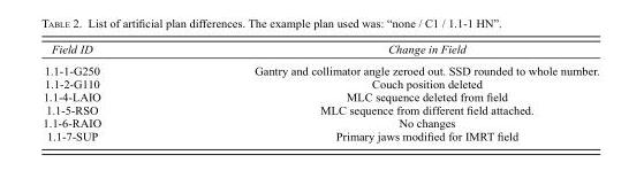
<table><thead><tr><td>Field ID</td><td>Change in Field</td></tr></thead><tbody><tr><td>1.1-1-G250</td><td>Gantry and collimator angle zeroed out. SSD rounded to whole number.</td></tr><tr><td>1.1-2-G110</td><td>Couch position deleted</td></tr><tr><td>1.1-4-LAIO</td><td>MLC sequence deleted from field</td></tr><tr><td>1.1-5-RSO</td><td>MLC sequence from different field attached.</td></tr><tr><td>1.1-6-RAIO</td><td>No changes</td></tr><tr><td>1.1-7-SUP</td><td>Primary jaws modified for IMRT field</td></tr></tbody></table>